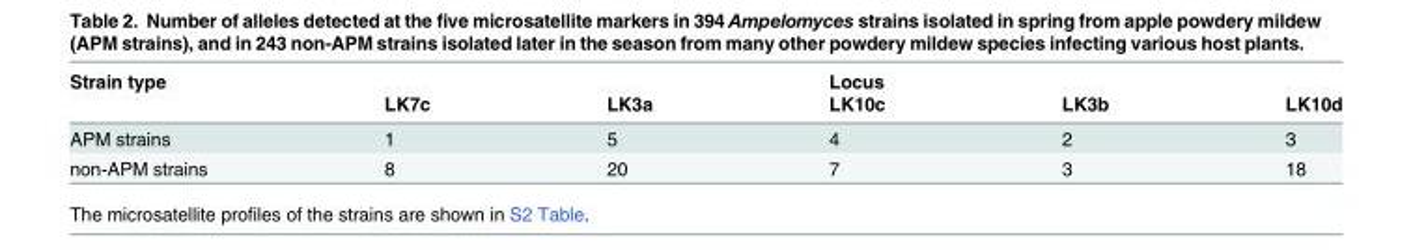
<table><thead><tr><td rowspan="2">Strain type</td><td rowspan="2">LK7c</td><td rowspan="2">LK3a</td><td rowspan="2">Locus LK10c</td><td rowspan="2">LK3b</td><td rowspan="2">LK10d</td></tr><tr></tr></thead><tbody><tr><td>APM strains</td><td>1</td><td>5</td><td>4</td><td>2</td><td>3</td></tr><tr><td>non-APM strains</td><td>8</td><td>20</td><td>7</td><td>3</td><td>18</td></tr></tbody></table>